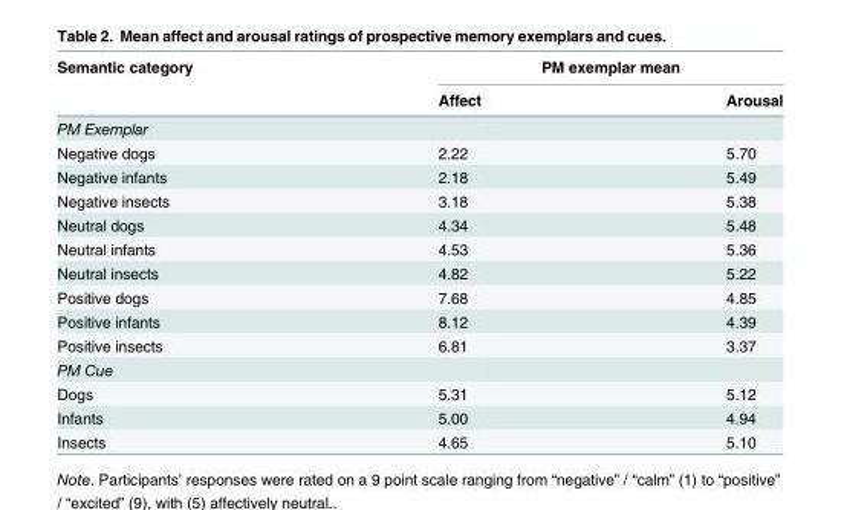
<table><thead><tr><td rowspan="2">Semantic category</td><td colspan="2">PM exemplar mean</td></tr><tr><td>Affect</td><td>Arousal</td></tr></thead><tbody><tr><td colspan="3">PM Exemplar</td></tr><tr><td>Negative dogs</td><td>2.22</td><td>5.70</td></tr><tr><td>Negative infants</td><td>2.18</td><td>5.49</td></tr><tr><td>Negative insects</td><td>3.18</td><td>5.38</td></tr><tr><td>Neutral dogs</td><td>4.34</td><td>5.48</td></tr><tr><td>Neutral infants</td><td>4.53</td><td>5.36</td></tr><tr><td>Neutral insects</td><td>4.82</td><td>5.22</td></tr><tr><td>Positive dogs</td><td>7.68</td><td>4.85</td></tr><tr><td>Positive infants</td><td>8.12</td><td>4.39</td></tr><tr><td>Positive insects</td><td>6.81</td><td>3.37</td></tr><tr><td colspan="3">PM Cue</td></tr><tr><td>Dogs</td><td>5.31</td><td>5.12</td></tr><tr><td>Infants</td><td>5.00</td><td>4.94</td></tr><tr><td>Insects</td><td>4.65</td><td>5.10</td></tr></tbody></table>